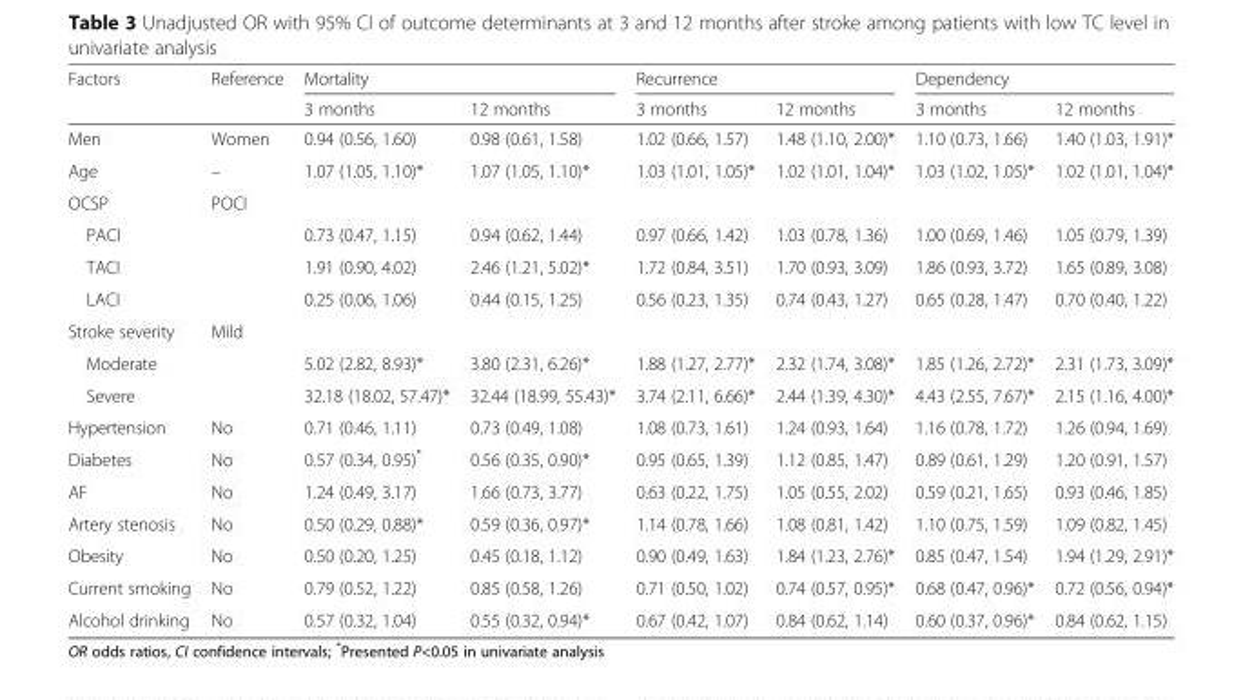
<table><thead><tr><td rowspan="2">Factors</td><td rowspan="2">Reference</td><td colspan="2">Mortality</td><td colspan="2">Recurrence</td><td colspan="2">Dependency</td></tr><tr><td>3 months</td><td>12 months</td><td>3 months</td><td>12 months</td><td>3 months</td><td>12 months</td></tr></thead><tbody><tr><td>Men</td><td>Women</td><td>0.94 (0.56, 1.60)</td><td>0.98 (0.61, 1.58)</td><td>1.02 (0.66, 1.57)</td><td>1.48 (1.10, 2.00)*</td><td>1.10 (0.73, 1.66)</td><td>1.40 (1.03, 1.91)*</td></tr><tr><td>Age</td><td>–</td><td>1.07 (1.05, 1.10)*</td><td>1.07 (1.05, 1.10)*</td><td>1.03 (1.01, 1.05)*</td><td>1.02 (1.01, 1.04)*</td><td>1.03 (1.02, 1.05)*</td><td>1.02 (1.01, 1.04)*</td></tr><tr><td>OCSP</td><td>POCI</td><td></td><td></td><td></td><td></td><td></td><td></td></tr><tr><td>PACI</td><td></td><td>0.73 (0.47, 1.15)</td><td>0.94 (0.62, 1.44)</td><td>0.97 (0.66, 1.42)</td><td>1.03 (0.78, 1.36)</td><td>1.00 (0.69, 1.46)</td><td>1.05 (0.79, 1.39)</td></tr><tr><td>TACI</td><td></td><td>1.91 (0.90, 4.02)</td><td>2.46 (1.21, 5.02)*</td><td>1.72 (0.84, 3.51)</td><td>1.70 (0.93, 3.09)</td><td>1.86 (0.93, 3.72)</td><td>1.65 (0.89, 3.08)</td></tr><tr><td>LACI</td><td></td><td>0.25 (0.06, 1.06)</td><td>0.44 (0.15, 1.25)</td><td>0.56 (0.23, 1.35)</td><td>0.74 (0.43, 1.27)</td><td>0.65 (0.28, 1.47)</td><td>0.70 (0.40, 1.22)</td></tr><tr><td>Stroke severity</td><td>Mild</td><td></td><td></td><td></td><td></td><td></td><td></td></tr><tr><td>Moderate</td><td></td><td>5.02 (2.82, 8.93)*</td><td>3.80 (2.31, 6.26)*</td><td>1.88 (1.27, 2.77)*</td><td>2.32 (1.74, 3.08)*</td><td>1.85 (1.26, 2.72)*</td><td>2.31 (1.73, 3.09)*</td></tr><tr><td>Severe</td><td></td><td>32.18 (18.02, 57.47)*</td><td>32.44 (18.99, 55.43)*</td><td>3.74 (2.11, 6.66)*</td><td>2.44 (1.39, 4.30)*</td><td>4.43 (2.55, 7.67)*</td><td>2.15 (1.16, 4.00)*</td></tr><tr><td>Hypertension</td><td>No</td><td>0.71 (0.46, 1.11)</td><td>0.73 (0.49, 1.08)</td><td>1.08 (0.73, 1.61)</td><td>1.24 (0.93, 1.64)</td><td>1.16 (0.78, 1.72)</td><td>1.26 (0.94, 1.69)</td></tr><tr><td>Diabetes</td><td>No</td><td>0.57 (0.34, 0.95)*</td><td>0.56 (0.35, 0.90)*</td><td>0.95 (0.65, 1.39)</td><td>1.12 (0.85, 1.47)</td><td>0.89 (0.61, 1.29)</td><td>1.20 (0.91, 1.57)</td></tr><tr><td>AF</td><td>No</td><td>1.24 (0.49, 3.17)</td><td>1.66 (0.73, 3.77)</td><td>0.63 (0.22, 1.75)</td><td>1.05 (0.55, 2.02)</td><td>0.59 (0.21, 1.65)</td><td>0.93 (0.46, 1.85)</td></tr><tr><td>Artery stenosis</td><td>No</td><td>0.50 (0.29, 0.88)*</td><td>0.59 (0.36, 0.97)*</td><td>1.14 (0.78, 1.66)</td><td>1.08 (0.81, 1.42)</td><td>1.10 (0.75, 1.59)</td><td>1.09 (0.82, 1.45)</td></tr><tr><td>Obesity</td><td>No</td><td>0.50 (0.20, 1.25)</td><td>0.45 (0.18, 1.12)</td><td>0.90 (0.49, 1.63)</td><td>1.84 (1.23, 2.76)*</td><td>0.85 (0.47, 1.54)</td><td>1.94 (1.29, 2.91)*</td></tr><tr><td>Current smoking</td><td>No</td><td>0.79 (0.52, 1.22)</td><td>0.85 (0.58, 1.26)</td><td>0.71 (0.50, 1.02)</td><td>0.74 (0.57, 0.95)*</td><td>0.68 (0.47, 0.96)*</td><td>0.72 (0.56, 0.94)*</td></tr><tr><td>Alcohol drinking</td><td>No</td><td>0.57 (0.32, 1.04)</td><td>0.55 (0.32, 0.94)*</td><td>0.67 (0.42, 1.07)</td><td>0.84 (0.62, 1.14)</td><td>0.60 (0.37, 0.96)*</td><td>0.84 (0.62, 1.15)</td></tr></tbody></table>